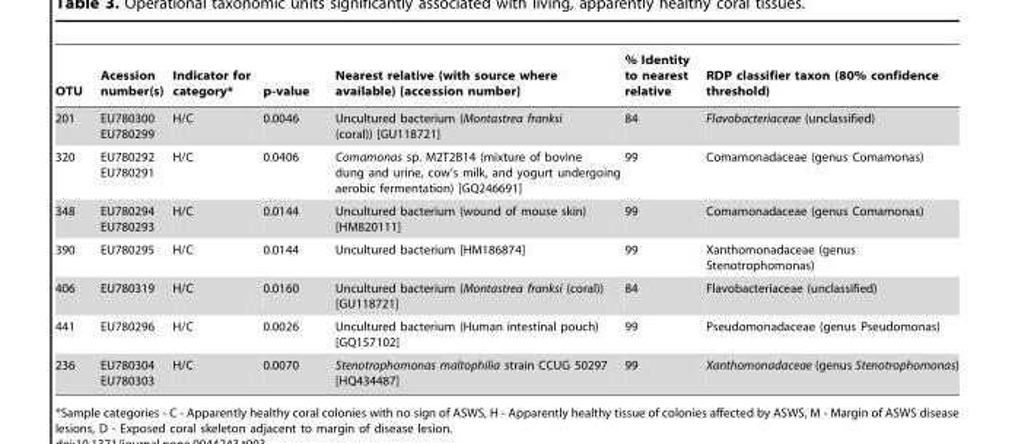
<table><thead><tr><td>OTU</td><td>Acession number(s)</td><td>Indicator for category*</td><td>p-value</td><td>Nearest relative (with source where available) [accession number]</td><td>% Identity to nearest relative</td><td>RDP classifier taxon (80% confidence threshold)</td></tr></thead><tbody><tr><td>201</td><td>EU780300 EU780299</td><td>H/C</td><td>0.0046</td><td>Uncultured bacterium (Montastrea franksi (coral)) [GU118721]</td><td>84</td><td>Flavobacteriaceae (unclassified)</td></tr><tr><td>320</td><td>EU780292 EU780291</td><td>H/C</td><td>0.0406</td><td>Comamonas sp. M2T2B14 (mixture of bovine dung and urine, cow’s milk, and yogurt undergoing aerobic fermentation) [GQ246691]</td><td>99</td><td>Comamonadaceae (genus Comamonas)</td></tr><tr><td>348</td><td>EU780294 EU780293</td><td>H/C</td><td>0.0144</td><td>Uncultured bacterium (wound of mouse skin) [HM820111]</td><td>99</td><td>Comamonadaceae (genus Comamonas)</td></tr><tr><td>390</td><td>EU780295</td><td>H/C</td><td>0.0144</td><td>Uncultured bacterium [HM186874]</td><td>99</td><td>Xanthomonadaceae (genus Stenotrophomonas)</td></tr><tr><td>406</td><td>EU780319</td><td>H/C</td><td>0.0160</td><td>Uncultured bacterium (Montastrea franksi (coral)) [GU118721]</td><td>84</td><td>Flavobacteriaceae (unclassified)</td></tr><tr><td>441</td><td>EU780296</td><td>H/C</td><td>0.0026</td><td>Uncultured bacterium (Human intestinal pouch) [GQ157102]</td><td>99</td><td>Pseudomonadaceae (genus Pseudomonas)</td></tr><tr><td>236</td><td>EU780304 EU780303</td><td>H/C</td><td>0.0070</td><td>Stenotrophomonas maltophilia strain CCUG 50297 [HQ434487]</td><td>99</td><td>Xanthomonadaceae (genus Stenotrophomonas)</td></tr></tbody></table>